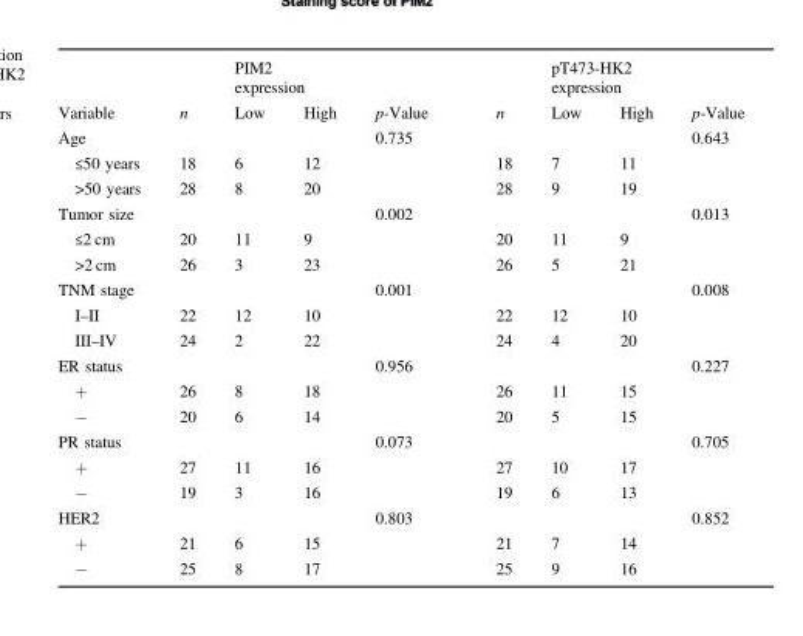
<table><thead><tr><td rowspan="2">Variable</td><td rowspan="2">n</td><td colspan="2">PIM2 expression</td><td rowspan="2">p-Value</td><td rowspan="2">n</td><td colspan="2">pT473-HK2 expression</td><td rowspan="2">p-Value</td></tr><tr><td>Low</td><td>High</td><td>Low</td><td>High</td></tr></thead><tbody><tr><td>Age</td><td></td><td></td><td></td><td>0.735</td><td></td><td></td><td></td><td>0.643</td></tr><tr><td>≤50 years</td><td>18</td><td>6</td><td>12</td><td></td><td>18</td><td>7</td><td>11</td><td></td></tr><tr><td>&gt;50 years</td><td>28</td><td>8</td><td>20</td><td></td><td>28</td><td>9</td><td>19</td><td></td></tr><tr><td>Tumor size</td><td></td><td></td><td></td><td>0.002</td><td></td><td></td><td></td><td>0.013</td></tr><tr><td>≤2 cm</td><td>20</td><td>11</td><td>9</td><td></td><td>20</td><td>11</td><td>9</td><td></td></tr><tr><td>&gt;2 cm</td><td>26</td><td>3</td><td>23</td><td></td><td>26</td><td>5</td><td>21</td><td></td></tr><tr><td>TNM stage</td><td></td><td></td><td></td><td>0.001</td><td></td><td></td><td></td><td>0.008</td></tr><tr><td>I–II</td><td>22</td><td>12</td><td>10</td><td></td><td>22</td><td>12</td><td>10</td><td></td></tr><tr><td>III–IV</td><td>24</td><td>2</td><td>22</td><td></td><td>24</td><td>4</td><td>20</td><td></td></tr><tr><td>ER status</td><td></td><td></td><td></td><td>0.956</td><td></td><td></td><td></td><td>0.227</td></tr><tr><td>+</td><td>26</td><td>8</td><td>18</td><td></td><td>26</td><td>11</td><td>15</td><td></td></tr><tr><td>−</td><td>20</td><td>6</td><td>14</td><td></td><td>20</td><td>5</td><td>15</td><td></td></tr><tr><td>PR status</td><td></td><td></td><td></td><td>0.073</td><td></td><td></td><td></td><td>0.705</td></tr><tr><td>+</td><td>27</td><td>11</td><td>16</td><td></td><td>27</td><td>10</td><td>17</td><td></td></tr><tr><td>−</td><td>19</td><td>3</td><td>16</td><td></td><td>19</td><td>6</td><td>13</td><td></td></tr><tr><td>HER2</td><td></td><td></td><td></td><td>0.803</td><td></td><td></td><td></td><td>0.852</td></tr><tr><td>+</td><td>21</td><td>6</td><td>15</td><td></td><td>21</td><td>7</td><td>14</td><td></td></tr><tr><td>−</td><td>25</td><td>8</td><td>17</td><td></td><td>25</td><td>9</td><td>16</td><td></td></tr></tbody></table>